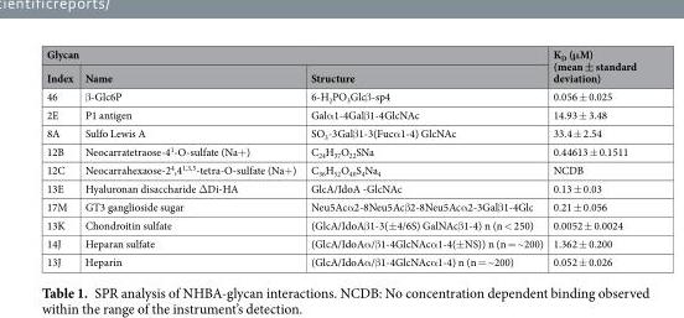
<table><thead><tr><td colspan="3">Glycan</td><td rowspan="2">K<sub>D</sub> (μM) (mean ± standard deviation)</td></tr><tr><td>Index</td><td>Name</td><td>Structure</td></tr></thead><tbody><tr><td>46</td><td>β-Glc6P</td><td>6-H<sub>2</sub>PO<sub>3</sub>Glcβ-sp4</td><td>0.056 ± 0.025</td></tr><tr><td>2E</td><td>P1 antigen</td><td>Galα1-4Galβ1-4GlcNAc</td><td>14.93 ± 3.48</td></tr><tr><td>8A</td><td>Sulfo Lewis A</td><td>SO<sub>3</sub>-3Galβ1-3(Fucα1-4) GlcNAc</td><td>33.4 ± 2.54</td></tr><tr><td>12B</td><td>Neocarratetraose-4<sup>1</sup>-O-sulfate (Na+)</td><td>C<sub>24</sub>H<sub>37</sub>O<sub>22</sub>SNa</td><td>0.44613 ± 0.1511</td></tr><tr><td>12C</td><td>Neocarrahexaose-2<sup>4</sup>,4<sup>1,3,5</sup>-tetra-O-sulfate (Na+)</td><td>C<sub>36</sub>H<sub>52</sub>O<sub>40</sub>S<sub>4</sub>Na<sub>4</sub></td><td>NCDB</td></tr><tr><td>13E</td><td>Hyaluronan disaccharide ΔDi-HA</td><td>GlcA/IdoA -GlcNAc</td><td>0.13 ± 0.03</td></tr><tr><td>17M</td><td>GT3 ganglioside sugar</td><td>Neu5Acα2-8Neu5Acβ2-8Neu5Acα2-3Galβ1-4Glc</td><td>0.21 ± 0.056</td></tr><tr><td>13K</td><td>Chondroitin sulfate</td><td>(GlcA/IdoAβ1-3(±4/6S) GalNAcβ1-4) n (n &lt; 250)</td><td>0.0052 ± 0.0024</td></tr><tr><td>14J</td><td>Heparan sulfate</td><td>(GlcA/IdoAα/β1-4GlcNAcα1-4(±NS)) n (n = ~200)</td><td>1.362 ± 0.200</td></tr><tr><td>13J</td><td>Heparin</td><td>(GlcA/IdoAα/β1-4GlcNAcα1-4) n (n = ~200)</td><td>0.052 ± 0.026</td></tr></tbody></table>